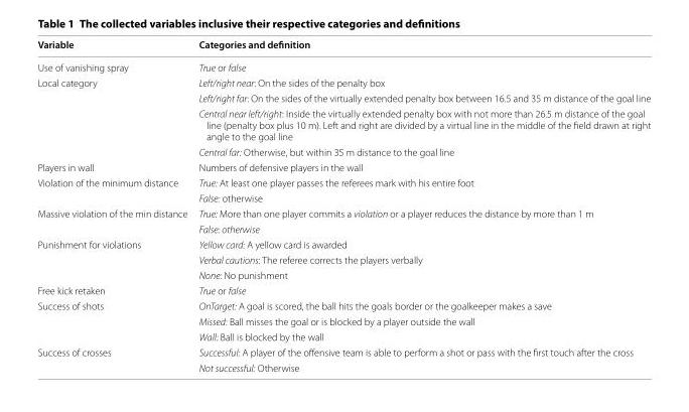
<table><thead><tr><td>Variable</td><td>Categories and definition</td></tr></thead><tbody><tr><td>Use of vanishing spray</td><td>True or false</td></tr><tr><td rowspan="4">Local category</td><td>Left/right near: On the sides of the penalty box</td></tr><tr><td>Left/right far: On the sides of the virtually extended penalty box between 16.5 and 35 m distance of the goal line</td></tr><tr><td>Central near left/right: Inside the virtually extended penalty box with not more than 26.5 m distance of the goal line (penalty box plus 10 m). Left and right are divided by a virtual line in the middle of the field drawn at right angle to the goal line</td></tr><tr><td>Central far: Otherwise, but within 35 m distance to the goal line</td></tr><tr><td>Players in wall</td><td>Numbers of defensive players in the wall</td></tr><tr><td rowspan="2">Violation of the minimum distance</td><td>True: At least one player passes the referees mark with his entire foot</td></tr><tr><td>False: otherwise</td></tr><tr><td rowspan="2">Massive violation of the min distance</td><td>True: More than one player commits a violation or a player reduces the distance by more than 1 m</td></tr><tr><td>False: otherwise</td></tr><tr><td rowspan="3">Punishment for violations</td><td>Yellow card: A yellow card is awarded</td></tr><tr><td>Verbal cautions: The referee corrects the players verbally</td></tr><tr><td>None: No punishment</td></tr><tr><td>Free kick retaken</td><td>True or false</td></tr><tr><td rowspan="3">Success of shots</td><td>OnTarget: A goal is scored, the ball hits the goals border or the goalkeeper makes a save</td></tr><tr><td>Missed: Ball misses the goal or is blocked by a player outside the wall</td></tr><tr><td>Wall: Ball is blocked by the wall</td></tr><tr><td rowspan="2">Success of crosses</td><td>Successful: A player of the offensive team is able to perform a shot or pass with the first touch after the cross</td></tr><tr><td>Not successful: Otherwise</td></tr></tbody></table>